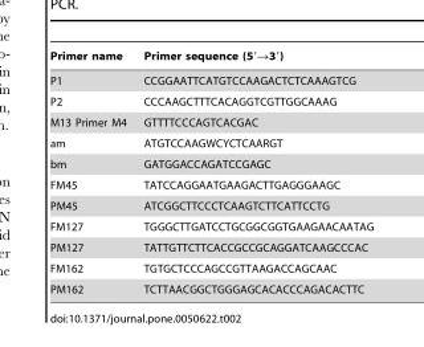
<table><thead><tr><td>Primer name</td><td>Primer sequence (5′→3′)</td></tr></thead><tbody><tr><td>P1</td><td>CCGGAATTCATGTCCAAGACTCTCAAAGTCG</td></tr><tr><td>P2</td><td>CCCAAGCTTTCACAGGTCGTTGGCAAAG</td></tr><tr><td>M13 Primer M4</td><td>GTTTTCCCAGTCACGAC</td></tr><tr><td>am</td><td>ATGTCCAAGWCYCTCAARGT</td></tr><tr><td>bm</td><td>GATGGACCAGATCCGAGC</td></tr><tr><td>FM45</td><td>TATCCAGGAATGAAGACTTGAGGGAAGC</td></tr><tr><td>PM45</td><td>ATCGGCTTCCCTCAAGTCTTCATTCCTG</td></tr><tr><td>FM127</td><td>TGGGCTTGATCCTGCGGCGGTGAAGAACAATAG</td></tr><tr><td>PM127</td><td>TATTGTTCTTCACCGCCGCAGGATCAAGCCCAC</td></tr><tr><td>FM162</td><td>TGTGCTCCCAGCCGTTAAGACCAGCAAC</td></tr><tr><td>PM162</td><td>TCTTAACGGCTGGGAGCACACCCAGACACTTC</td></tr></tbody></table>